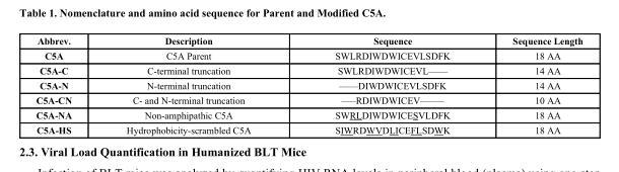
<table><thead><tr><td>Abbrev.</td><td>Description</td><td>Sequence</td><td>Sequence Length</td></tr></thead><tbody><tr><td>C5A</td><td>C5A Parent</td><td>SWLRDIWDWICEVLSDFK</td><td>18 AA</td></tr><tr><td>C5A-C</td><td>C-terminal truncation</td><td>SWLRDIWDWICEVL––––</td><td>14 AA</td></tr><tr><td>C5A-N</td><td>N-terminal truncation</td><td>––––DIWDWICEVLSDFK</td><td>14 AA</td></tr><tr><td>C5A-CN</td><td>C- and N-terminal truncation</td><td>–––RDIWDWICEV–––––</td><td>10 AA</td></tr><tr><td>C5A-NA</td><td>Non-amphipathic C5A</td><td>SWRLDIWDWICESVLDFK</td><td>18 AA</td></tr><tr><td>C5A-HS</td><td>Hydrophobicity-scrambled C5A</td><td>SIWRDWVDLICEFLSDWK</td><td>18 AA</td></tr></tbody></table>